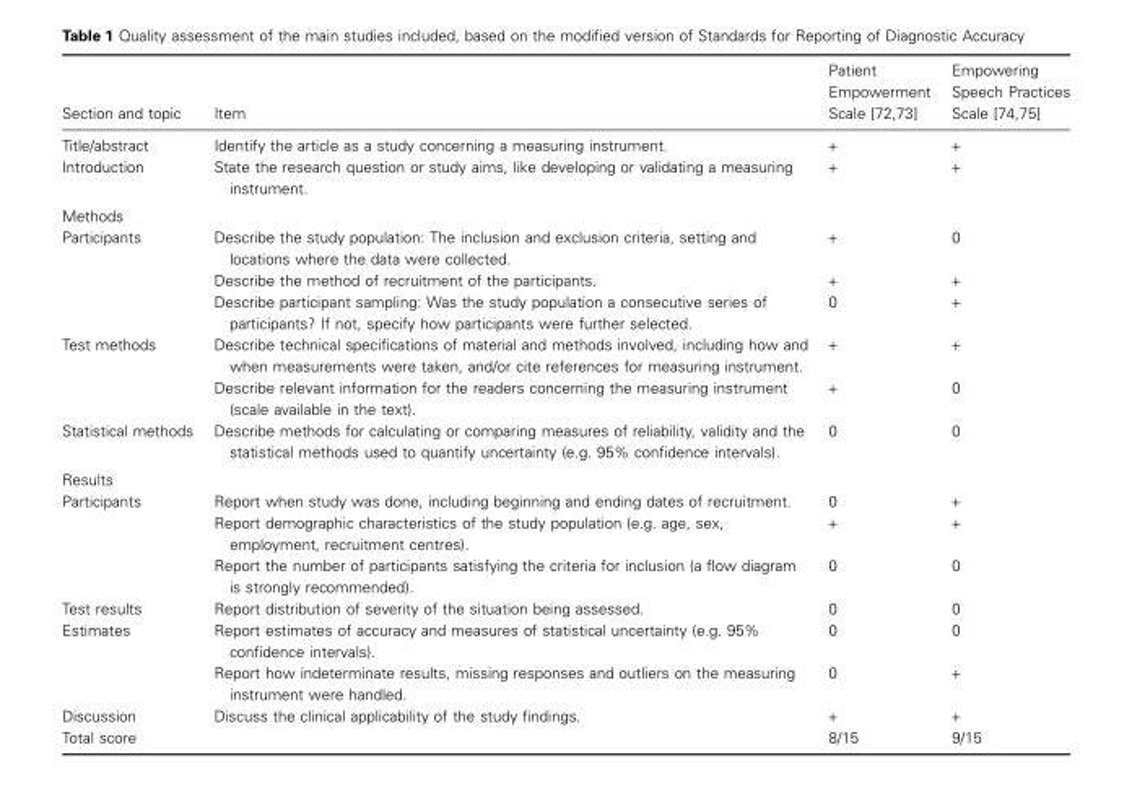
<table><thead><tr><td>Section and topic</td><td>Item</td><td>Patient Empowerment Scale [72,73]</td><td>Empowering Speech Practices Scale [74,75]</td></tr></thead><tbody><tr><td>Title/abstract</td><td>Identify the article as a study concerning a measuring instrument.</td><td>+</td><td>+</td></tr><tr><td>Introduction</td><td>State the research question or study aims, like developing or validating a measuring instrument.</td><td>+</td><td>+</td></tr><tr><td rowspan="3">Methods Participants</td><td>Describe the study population: The inclusion and exclusion criteria, setting and locations where the data were collected.</td><td>+</td><td>0</td></tr><tr><td>Describe the method of recruitment of the participants.</td><td>+</td><td>+</td></tr><tr><td>Describe participant sampling: Was the study population a consecutive series of participants? If not, specify how participants were further selected.</td><td>0</td><td>+</td></tr><tr><td rowspan="2">Test methods</td><td>Describe technical specifications of material and methods involved, including how and when measurements were taken, and/or cite references for measuring instrument.</td><td>+</td><td>+</td></tr><tr><td>Describe relevant information for the readers concerning the measuring instrument (scale available in the text).</td><td>+</td><td>0</td></tr><tr><td>Statistical methods</td><td>Describe methods for calculating or comparing measures of reliability, validity and the statistical methods used to quantify uncertainty (e.g. 95% confidence intervals).</td><td>0</td><td>0</td></tr><tr><td rowspan="3">Results Participants</td><td>Report when study was done, including beginning and ending dates of recruitment.</td><td>0</td><td>+</td></tr><tr><td>Report demographic characteristics of the study population (e.g. age, sex, employment, recruitment centres).</td><td>+</td><td>+</td></tr><tr><td>Report the number of participants satisfying the criteria for inclusion (a flow diagram is strongly recommended).</td><td>0</td><td>0</td></tr><tr><td>Test results</td><td>Report distribution of severity of the situation being assessed.</td><td>0</td><td>0</td></tr><tr><td rowspan="2">Estimates</td><td>Report estimates of accuracy and measures of statistical uncertainty (e.g. 95% confidence intervals).</td><td>0</td><td>0</td></tr><tr><td>Report how indeterminate results, missing responses and outliers on the measuring instrument were handled.</td><td>0</td><td>+</td></tr><tr><td>Discussion</td><td>Discuss the clinical applicability of the study findings.</td><td>+</td><td>+</td></tr><tr><td>Total score</td><td></td><td>8/15</td><td>9/15</td></tr></tbody></table>